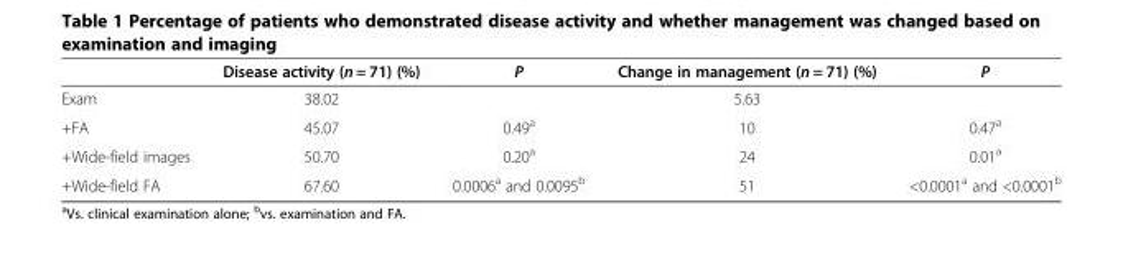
<table><thead><tr><td></td><td>Disease activity (n = 71) (%)</td><td>P</td><td>Change in management (n = 71) (%)</td><td>P</td></tr></thead><tbody><tr><td>Exam</td><td>38.02</td><td></td><td>5.63</td><td></td></tr><tr><td>+FA</td><td>45.07</td><td>0.49<sup>a</sup></td><td>10</td><td>0.47<sup>a</sup></td></tr><tr><td>+Wide-field images</td><td>50.70</td><td>0.20<sup>a</sup></td><td>24</td><td>0.01<sup>a</sup></td></tr><tr><td>+Wide-field FA</td><td>67.60</td><td>0.0006<sup>a</sup> and 0.0095<sup>b</sup></td><td>51</td><td>&lt;0.0001<sup>a</sup> and &lt;0.0001<sup>b</sup></td></tr></tbody></table>